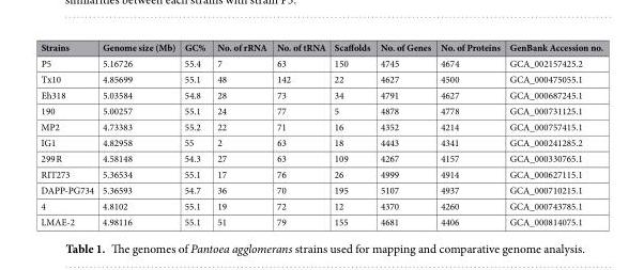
<table><thead><tr><td>Strains</td><td>Genome size (Mb)</td><td>GC%</td><td>No. of rRNA</td><td>No. of tRNA</td><td>Scaffolds</td><td>No. of Genes</td><td>No. of Proteins</td><td>GenBank Accession no.</td></tr></thead><tbody><tr><td>P5</td><td>5.16726</td><td>55.4</td><td>7</td><td>63</td><td>150</td><td>4745</td><td>4674</td><td>GCA_002157425.2</td></tr><tr><td>Tx10</td><td>4.85699</td><td>55.1</td><td>48</td><td>142</td><td>22</td><td>4627</td><td>4500</td><td>GCA_000475055.1</td></tr><tr><td>Eh318</td><td>5.03584</td><td>54.8</td><td>28</td><td>73</td><td>34</td><td>4791</td><td>4627</td><td>GCA_000687245.1</td></tr><tr><td>190</td><td>5.00257</td><td>55.1</td><td>24</td><td>77</td><td>5</td><td>4878</td><td>4778</td><td>GCA_000731125.1</td></tr><tr><td>MP2</td><td>4.73383</td><td>55.2</td><td>22</td><td>71</td><td>16</td><td>4352</td><td>4214</td><td>GCA_000757415.1</td></tr><tr><td>IG1</td><td>4.82958</td><td>55</td><td>2</td><td>63</td><td>18</td><td>4443</td><td>4341</td><td>GCA_000241285.2</td></tr><tr><td>299 R</td><td>4.58148</td><td>54.3</td><td>27</td><td>63</td><td>109</td><td>4267</td><td>4157</td><td>GCA_000330765.1</td></tr><tr><td>RIT273</td><td>5.36534</td><td>55.1</td><td>17</td><td>76</td><td>26</td><td>4999</td><td>4914</td><td>GCA_000627115.1</td></tr><tr><td>DAPP-PG734</td><td>5.36593</td><td>54.7</td><td>36</td><td>70</td><td>195</td><td>5107</td><td>4937</td><td>GCA_000710215.1</td></tr><tr><td>4</td><td>4.8102</td><td>55.1</td><td>19</td><td>72</td><td>12</td><td>4370</td><td>4260</td><td>GCA_000743785.1</td></tr><tr><td>LMAE-2</td><td>4.98116</td><td>55.1</td><td>51</td><td>79</td><td>155</td><td>4681</td><td>4406</td><td>GCA_000814075.1</td></tr></tbody></table>